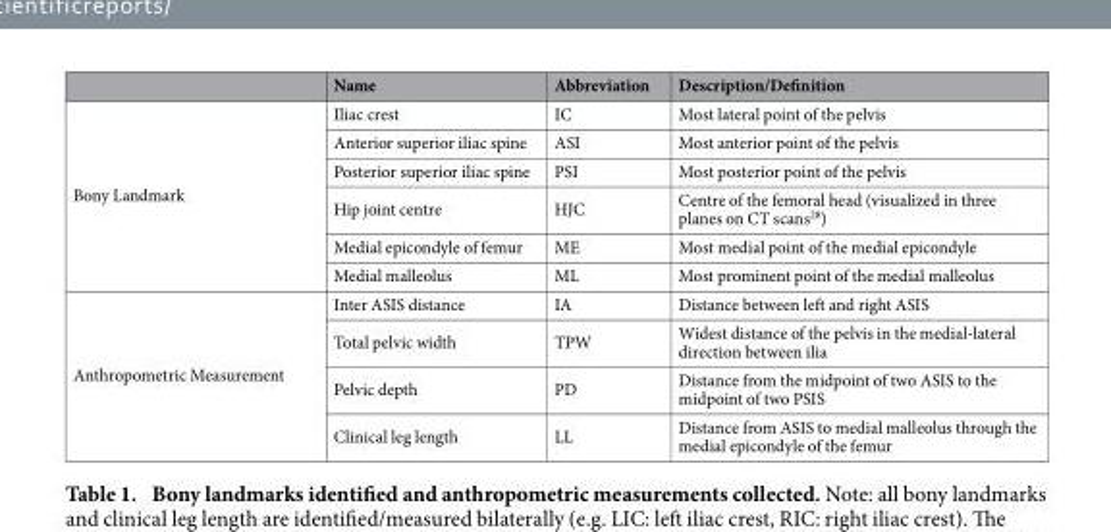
<table><thead><tr><td></td><td>Name</td><td>Abbreviation</td><td>Description/Definition</td></tr></thead><tbody><tr><td rowspan="6">Bony Landmark</td><td>Iliac crest</td><td>IC</td><td>Most lateral point of the pelvis</td></tr><tr><td>Anterior superior iliac spine</td><td>ASI</td><td>Most anterior point of the pelvis</td></tr><tr><td>Posterior superior iliac spine</td><td>PSI</td><td>Most posterior point of the pelvis</td></tr><tr><td>Hip joint centre</td><td>HJC</td><td>Centre of the femoral head (visualized in three planes on CT scans<sup>28</sup>)</td></tr><tr><td>Medial epicondyle of femur</td><td>ME</td><td>Most medial point of the medial epicondyle</td></tr><tr><td>Medial malleolus</td><td>ML</td><td>Most prominent point of the medial malleolus</td></tr><tr><td rowspan="4">Anthropometric Measurement</td><td>Inter ASIS distance</td><td>IA</td><td>Distance between left and right ASIS</td></tr><tr><td>Total pelvic width</td><td>TPW</td><td>Widest distance of the pelvis in the medial-lateral direction between ilia</td></tr><tr><td>Pelvic depth</td><td>PD</td><td>Distance from the midpoint of two ASIS to the midpoint of two PSIS</td></tr><tr><td>Clinical leg length</td><td>LL</td><td>Distance from ASIS to medial malleolus through the medial epicondyle of the femur</td></tr></tbody></table>